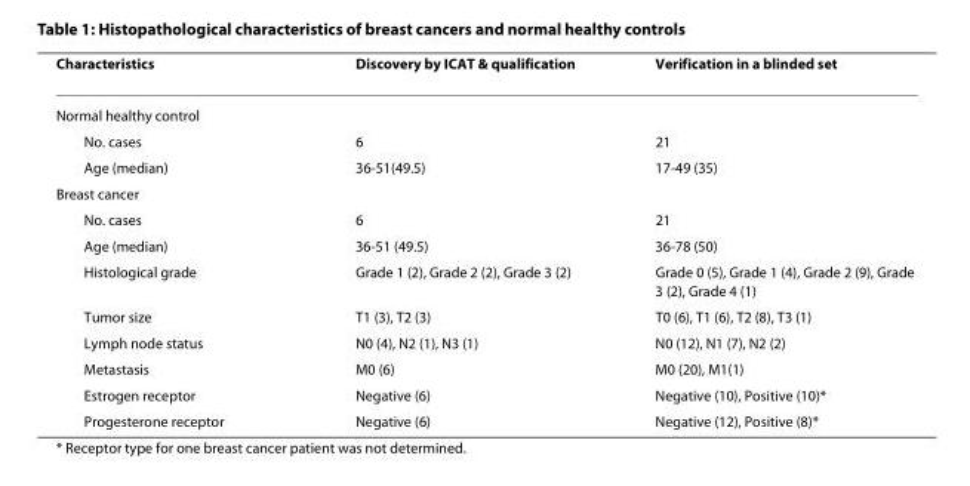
<table><thead><tr><td>Characteristics</td><td>Discovery by ICAT &amp; qualification</td><td>Verification in a blinded set</td></tr></thead><tbody><tr><td colspan="3">Normal healthy control</td></tr><tr><td>No. cases</td><td>6</td><td>21</td></tr><tr><td>Age (median)</td><td>36-51(49.5)</td><td>17-49 (35)</td></tr><tr><td colspan="3">Breast cancer</td></tr><tr><td>No. cases</td><td>6</td><td>21</td></tr><tr><td>Age (median)</td><td>36-51 (49.5)</td><td>36-78 (50)</td></tr><tr><td>Histological grade</td><td>Grade 1 (2), Grade 2 (2), Grade 3 (2)</td><td>Grade 0 (5), Grade 1 (4), Grade 2 (9), Grade 3 (2), Grade 4 (1)</td></tr><tr><td>Tumor size</td><td>T1 (3), T2 (3)</td><td>T0 (6), T1 (6), T2 (8), T3 (1)</td></tr><tr><td>Lymph node status</td><td>N0 (4), N2 (1), N3 (1)</td><td>N0 (12), N1 (7), N2 (2)</td></tr><tr><td>Metastasis</td><td>M0 (6)</td><td>M0 (20), M1(1)</td></tr><tr><td>Estrogen receptor</td><td>Negative (6)</td><td>Negative (10), Positive (10)*</td></tr><tr><td>Progesterone receptor</td><td>Negative (6)</td><td>Negative (12), Positive (8)*</td></tr></tbody></table>